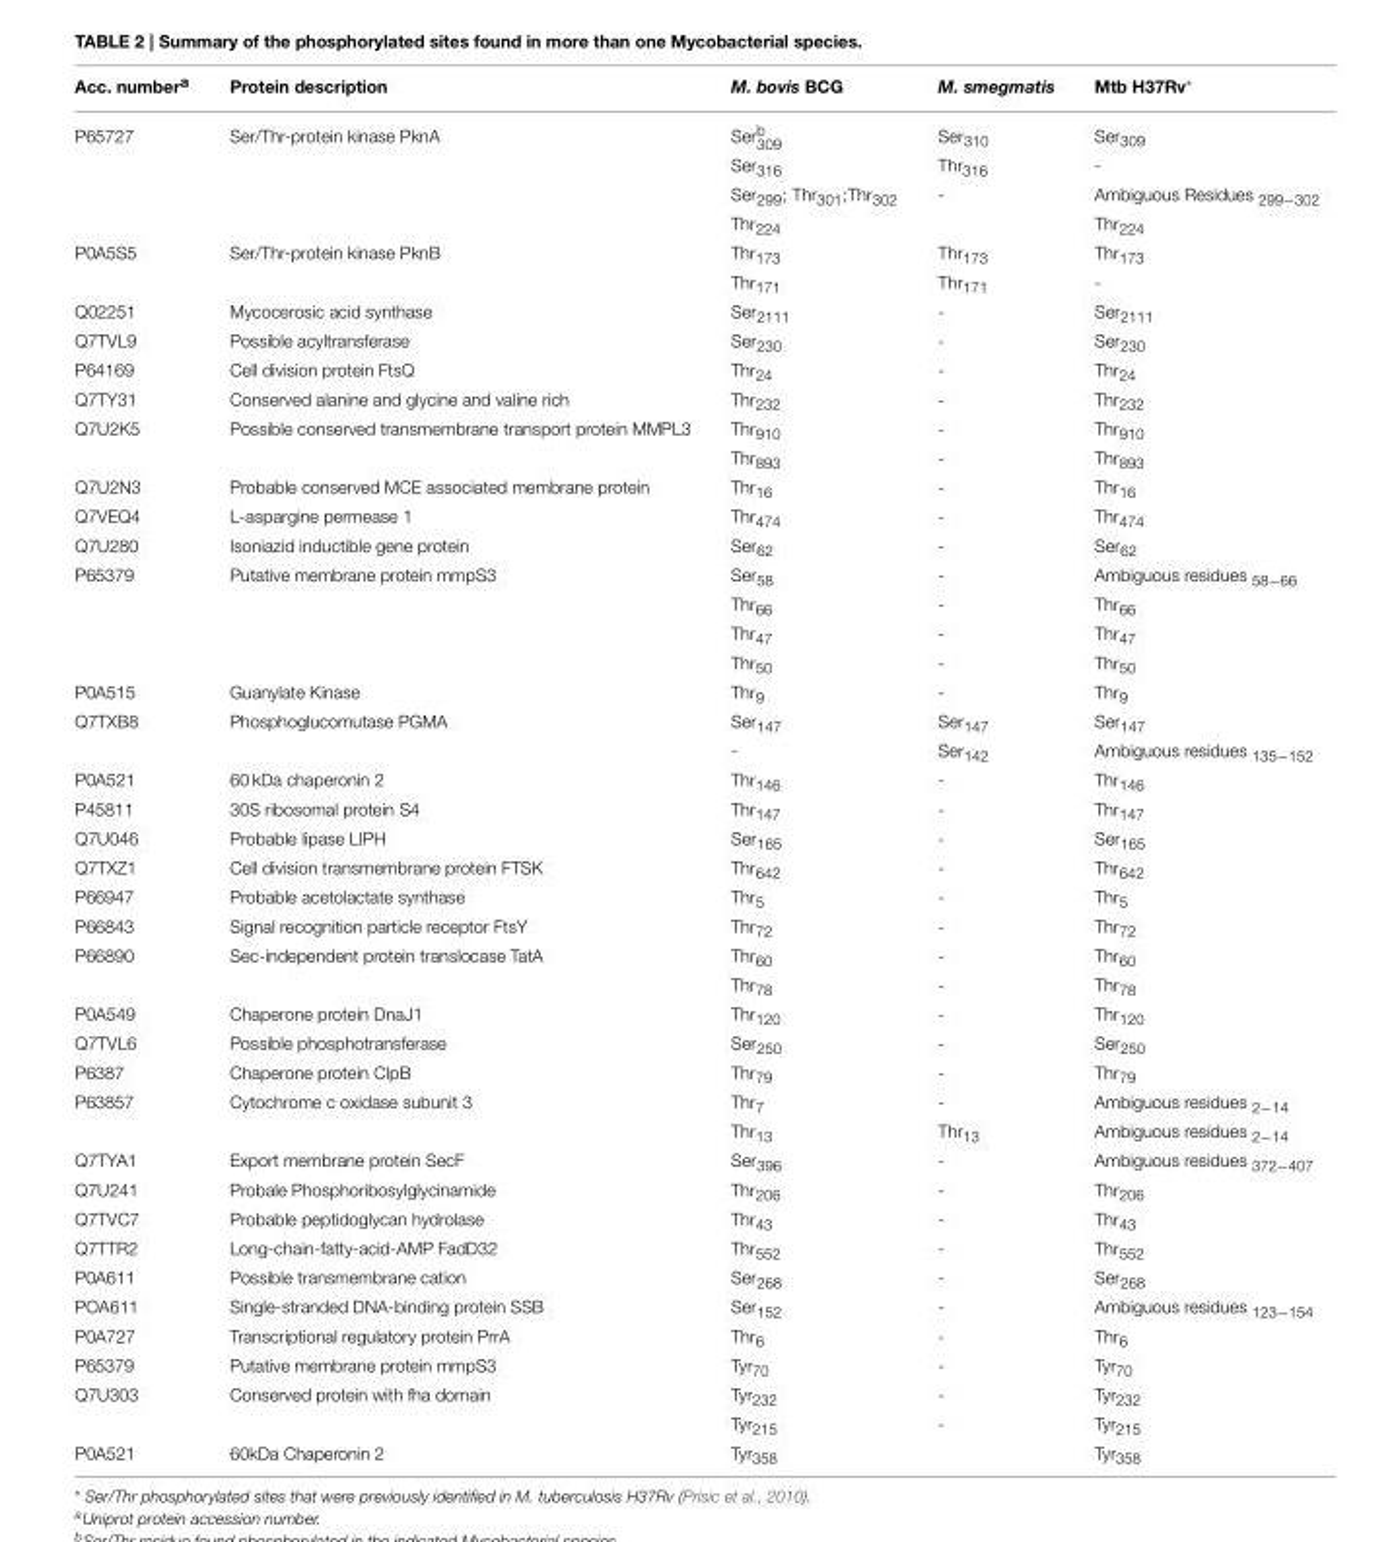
<table><thead><tr><td>Acc. number<sup>a</sup></td><td>Protein description</td><td>M. bovis BCG</td><td>M. smegmatis</td><td>Mtb H37Rv*</td></tr></thead><tbody><tr><td rowspan="4">P65727</td><td>Ser/Thr-protein kinase PknA</td><td>Ser<sup>b</sup> <sub>309</sub></td><td>Ser<sub>310</sub></td><td>Ser<sub>309</sub></td></tr><tr><td></td><td>Ser<sub>316</sub></td><td>Thr<sub>316</sub></td><td>-</td></tr><tr><td></td><td>Ser<sub>299</sub>; Thr<sub>301</sub>;Thr<sub>302</sub></td><td>-</td><td>Ambiguous Residues <sub>299−302</sub></td></tr><tr><td></td><td>Thr<sub>224</sub></td><td></td><td>Thr<sub>224</sub></td></tr><tr><td rowspan="2">P0A5S5</td><td>Ser/Thr-protein kinase PknB</td><td>Thr<sub>173</sub></td><td>Thr<sub>173</sub></td><td>Thr<sub>173</sub></td></tr><tr><td></td><td>Thr<sub>171</sub></td><td>Thr<sub>171</sub></td><td>-</td></tr><tr><td>Q02251</td><td>Mycocerosic acid synthase</td><td>Ser<sub>2111</sub></td><td>-</td><td>Ser<sub>2111</sub></td></tr><tr><td>Q7TVL9</td><td>Possible acyltransferase</td><td>Ser<sub>230</sub></td><td>-</td><td>Ser<sub>230</sub></td></tr><tr><td>P64169</td><td>Cell division protein FtsQ</td><td>Thr<sub>24</sub></td><td>-</td><td>Thr<sub>24</sub></td></tr><tr><td>Q7TY31</td><td>Conserved alanine and glycine and valine rich</td><td>Thr<sub>232</sub></td><td>-</td><td>Thr<sub>232</sub></td></tr><tr><td rowspan="2">Q7U2K5</td><td>Possible conserved transmembrane transport protein MMPL3</td><td>Thr<sub>910</sub></td><td>-</td><td>Thr<sub>910</sub></td></tr><tr><td></td><td>Thr<sub>893</sub></td><td>-</td><td>Thr<sub>893</sub></td></tr><tr><td>Q7U2N3</td><td>Probable conserved MCE associated membrane protein</td><td>Thr<sub>16</sub></td><td>-</td><td>Thr<sub>16</sub></td></tr><tr><td>Q7VEQ4</td><td>L-aspargine permease 1</td><td>Thr<sub>474</sub></td><td>-</td><td>Thr<sub>474</sub></td></tr><tr><td>Q7U280</td><td>Isoniazid inductible gene protein</td><td>Ser<sub>62</sub></td><td>-</td><td>Ser<sub>62</sub></td></tr><tr><td rowspan="4">P65379</td><td>Putative membrane protein mmpS3</td><td>Ser<sub>58</sub></td><td>-</td><td>Ambiguous residues <sub>58−66</sub></td></tr><tr><td></td><td>Thr<sub>66</sub></td><td>-</td><td>Thr<sub>66</sub></td></tr><tr><td></td><td>Thr<sub>47</sub></td><td>-</td><td>Thr<sub>47</sub></td></tr><tr><td></td><td>Thr<sub>50</sub></td><td>-</td><td>Thr<sub>50</sub></td></tr><tr><td>P0A515</td><td>Guanylate Kinase</td><td>Thr<sub>9</sub></td><td>-</td><td>Thr<sub>9</sub></td></tr><tr><td rowspan="2">Q7TXB8</td><td>Phosphoglucomutase PGMA</td><td>Ser<sub>147</sub></td><td>Ser<sub>147</sub></td><td>Ser<sub>147</sub></td></tr><tr><td></td><td>-</td><td>Ser<sub>142</sub></td><td>Ambiguous residues <sub>135−152</sub></td></tr><tr><td>P0A521</td><td>60 kDa chaperonin 2</td><td>Thr<sub>146</sub></td><td>-</td><td>Thr<sub>146</sub></td></tr><tr><td>P45811</td><td>30S ribosomal protein S4</td><td>Thr<sub>147</sub></td><td>-</td><td>Thr<sub>147</sub></td></tr><tr><td>Q7U046</td><td>Probable lipase LIPH</td><td>Ser<sub>165</sub></td><td>-</td><td>Ser<sub>165</sub></td></tr><tr><td>Q7TXZ1</td><td>Cell division transmembrane protein FTSK</td><td>Thr<sub>642</sub></td><td>-</td><td>Thr<sub>642</sub></td></tr><tr><td>P66947</td><td>Probable acetolactate synthase</td><td>Thr<sub>5</sub></td><td>-</td><td>Thr<sub>5</sub></td></tr><tr><td>P66843</td><td>Signal recognition particle receptor FtsY</td><td>Thr<sub>72</sub></td><td>-</td><td>Thr<sub>72</sub></td></tr><tr><td rowspan="2">P66890</td><td>Sec-independent protein translocase TatA</td><td>Thr<sub>60</sub></td><td>-</td><td>Thr<sub>60</sub></td></tr><tr><td></td><td>Thr<sub>78</sub></td><td>-</td><td>Thr<sub>78</sub></td></tr><tr><td>P0A549</td><td>Chaperone protein DnaJ1</td><td>Thr<sub>120</sub></td><td>-</td><td>Thr<sub>120</sub></td></tr><tr><td>Q7TVL6</td><td>Possible phosphotransferase</td><td>Ser<sub>250</sub></td><td>-</td><td>Ser<sub>250</sub></td></tr><tr><td>P6387</td><td>Chaperone protein ClpB</td><td>Thr<sub>79</sub></td><td>-</td><td>Thr<sub>79</sub></td></tr><tr><td rowspan="2">P63857</td><td>Cytochrome c oxidase subunit 3</td><td>Thr<sub>7</sub></td><td>-</td><td>Ambiguous residues <sub>2−14</sub></td></tr><tr><td></td><td>Thr<sub>13</sub></td><td>Thr<sub>13</sub></td><td>Ambiguous residues <sub>2−14</sub></td></tr><tr><td>Q7TYA1</td><td>Export membrane protein SecF</td><td>Ser<sub>396</sub></td><td>-</td><td>Ambiguous residues <sub>372−407</sub></td></tr><tr><td>Q7U241</td><td>Probale Phosphoribosylglycinamide</td><td>Thr<sub>206</sub></td><td>-</td><td>Thr<sub>206</sub></td></tr><tr><td>Q7TVC7</td><td>Probable peptidoglycan hydrolase</td><td>Thr<sub>43</sub></td><td>-</td><td>Thr<sub>43</sub></td></tr><tr><td>Q7TTR2</td><td>Long-chain-fatty-acid-AMP FadD32</td><td>Thr<sub>552</sub></td><td>-</td><td>Thr<sub>552</sub></td></tr><tr><td>P0A611</td><td>Possible transmembrane cation</td><td>Ser<sub>268</sub></td><td>-</td><td>Ser<sub>268</sub></td></tr><tr><td>POA611</td><td>Single-stranded DNA-binding protein SSB</td><td>Ser<sub>152</sub></td><td>-</td><td>Ambiguous residues <sub>123−154</sub></td></tr><tr><td>P0A727</td><td>Transcriptional regulatory protein PrrA</td><td>Thr<sub>6</sub></td><td>-</td><td>Thr<sub>6</sub></td></tr><tr><td>P65379</td><td>Putative membrane protein mmpS3</td><td>Tyr<sub>70</sub></td><td>-</td><td>Tyr<sub>70</sub></td></tr><tr><td rowspan="2">Q7U303</td><td>Conserved protein with fha domain</td><td>Tyr<sub>232</sub></td><td>-</td><td>Tyr<sub>232</sub></td></tr><tr><td></td><td>Tyr<sub>215</sub></td><td>-</td><td>Tyr<sub>215</sub></td></tr><tr><td>P0A521</td><td>60kDa Chaperonin 2</td><td>Tyr<sub>358</sub></td><td></td><td>Tyr<sub>358</sub></td></tr></tbody></table>